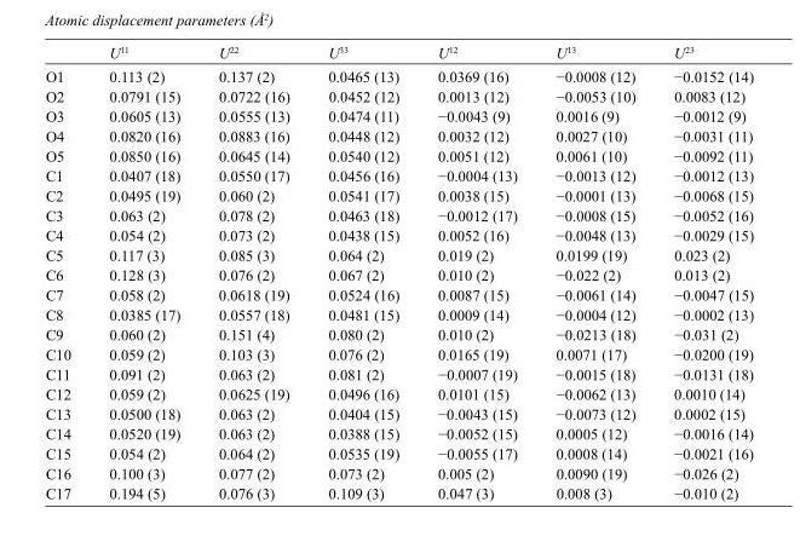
<table><thead><tr><td></td><td>U<sup>11</sup></td><td>U<sup>22</sup></td><td>U<sup>33</sup></td><td>U<sup>12</sup></td><td>U<sup>13</sup></td><td>U<sup>23</sup></td></tr></thead><tbody><tr><td>O1</td><td>0.113 (2)</td><td>0.137 (2)</td><td>0.0465 (13)</td><td>0.0369 (16)</td><td>−0.0008 (12)</td><td>−0.0152 (14)</td></tr><tr><td>O2</td><td>0.0791 (15)</td><td>0.0722 (16)</td><td>0.0452 (12)</td><td>0.0013 (12)</td><td>−0.0053 (10)</td><td>0.0083 (12)</td></tr><tr><td>O3</td><td>0.0605 (13)</td><td>0.0555 (13)</td><td>0.0474 (11)</td><td>−0.0043 (9)</td><td>0.0016 (9)</td><td>−0.0012 (9)</td></tr><tr><td>O4</td><td>0.0820 (16)</td><td>0.0883 (16)</td><td>0.0448 (12)</td><td>0.0032 (12)</td><td>0.0027 (10)</td><td>−0.0031 (11)</td></tr><tr><td>O5</td><td>0.0850 (16)</td><td>0.0645 (14)</td><td>0.0540 (12)</td><td>0.0051 (12)</td><td>0.0061 (10)</td><td>−0.0092 (11)</td></tr><tr><td>C1</td><td>0.0407 (18)</td><td>0.0550 (17)</td><td>0.0456 (16)</td><td>−0.0004 (13)</td><td>−0.0013 (12)</td><td>−0.0012 (13)</td></tr><tr><td>C2</td><td>0.0495 (19)</td><td>0.060 (2)</td><td>0.0541 (17)</td><td>0.0038 (15)</td><td>−0.0001 (13)</td><td>−0.0068 (15)</td></tr><tr><td>C3</td><td>0.063 (2)</td><td>0.078 (2)</td><td>0.0463 (18)</td><td>−0.0012 (17)</td><td>−0.0008 (15)</td><td>−0.0052 (16)</td></tr><tr><td>C4</td><td>0.054 (2)</td><td>0.073 (2)</td><td>0.0438 (15)</td><td>0.0052 (16)</td><td>−0.0048 (13)</td><td>−0.0029 (15)</td></tr><tr><td>C5</td><td>0.117 (3)</td><td>0.085 (3)</td><td>0.064 (2)</td><td>0.019 (2)</td><td>0.0199 (19)</td><td>0.023 (2)</td></tr><tr><td>C6</td><td>0.128 (3)</td><td>0.076 (2)</td><td>0.067 (2)</td><td>0.010 (2)</td><td>−0.022 (2)</td><td>0.013 (2)</td></tr><tr><td>C7</td><td>0.058 (2)</td><td>0.0618 (19)</td><td>0.0524 (16)</td><td>0.0087 (15)</td><td>−0.0061 (14)</td><td>−0.0047 (15)</td></tr><tr><td>C8</td><td>0.0385 (17)</td><td>0.0557 (18)</td><td>0.0481 (15)</td><td>0.0009 (14)</td><td>−0.0004 (12)</td><td>−0.0002 (13)</td></tr><tr><td>C9</td><td>0.060 (2)</td><td>0.151 (4)</td><td>0.080 (2)</td><td>0.010 (2)</td><td>−0.0213 (18)</td><td>−0.031 (2)</td></tr><tr><td>C10</td><td>0.059 (2)</td><td>0.103 (3)</td><td>0.076 (2)</td><td>0.0165 (19)</td><td>0.0071 (17)</td><td>−0.0200 (19)</td></tr><tr><td>C11</td><td>0.091 (2)</td><td>0.063 (2)</td><td>0.081 (2)</td><td>−0.0007 (19)</td><td>−0.0015 (18)</td><td>−0.0131 (18)</td></tr><tr><td>C12</td><td>0.059 (2)</td><td>0.0625 (19)</td><td>0.0496 (16)</td><td>0.0101 (15)</td><td>−0.0062 (13)</td><td>0.0010 (14)</td></tr><tr><td>C13</td><td>0.0500 (18)</td><td>0.063 (2)</td><td>0.0404 (15)</td><td>−0.0043 (15)</td><td>−0.0073 (12)</td><td>0.0002 (15)</td></tr><tr><td>C14</td><td>0.0520 (19)</td><td>0.063 (2)</td><td>0.0388 (15)</td><td>−0.0052 (15)</td><td>0.0005 (12)</td><td>−0.0016 (14)</td></tr><tr><td>C15</td><td>0.054 (2)</td><td>0.064 (2)</td><td>0.0535 (19)</td><td>−0.0055 (17)</td><td>0.0008 (14)</td><td>−0.0021 (16)</td></tr><tr><td>C16</td><td>0.100 (3)</td><td>0.077 (2)</td><td>0.073 (2)</td><td>0.005 (2)</td><td>0.0090 (19)</td><td>−0.026 (2)</td></tr><tr><td>C17</td><td>0.194 (5)</td><td>0.076 (3)</td><td>0.109 (3)</td><td>0.047 (3)</td><td>0.008 (3)</td><td>−0.010 (2)</td></tr></tbody></table>